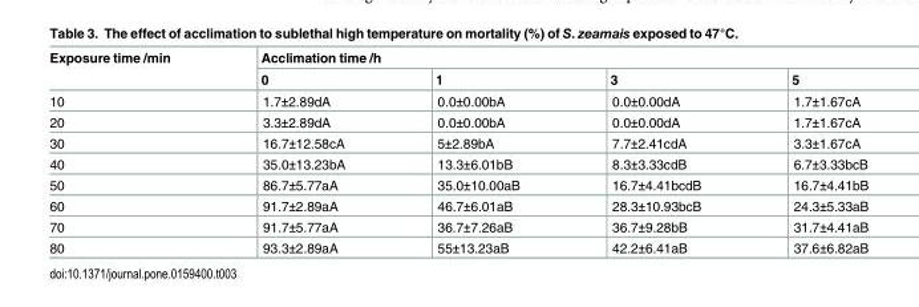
<table><thead><tr><td rowspan="2">Exposure time /min</td><td colspan="4">Acclimation time /h</td></tr><tr><td>0</td><td>1</td><td>3</td><td>5</td></tr></thead><tbody><tr><td>10</td><td>1.7±2.89dA</td><td>0.0±0.00bA</td><td>0.0±0.00dA</td><td>1.7±1.67cA</td></tr><tr><td>20</td><td>3.3±2.89dA</td><td>0.0±0.00bA</td><td>0.0±0.00dA</td><td>1.7±1.67cA</td></tr><tr><td>30</td><td>16.7±12.58cA</td><td>5±2.89bA</td><td>7.7±2.41cdA</td><td>3.3±1.67cA</td></tr><tr><td>40</td><td>35.0±13.23bA</td><td>13.3±6.01bB</td><td>8.3±3.33cdB</td><td>6.7±3.33bcB</td></tr><tr><td>50</td><td>86.7±5.77aA</td><td>35.0±10.00aB</td><td>16.7±4.41bcdB</td><td>16.7±4.41bB</td></tr><tr><td>60</td><td>91.7±2.89aA</td><td>46.7±6.01aB</td><td>28.3±10.93bcB</td><td>24.3±5.33aB</td></tr><tr><td>70</td><td>91.7±5.77aA</td><td>36.7±7.26aB</td><td>36.7±9.28bB</td><td>31.7±4.41aB</td></tr><tr><td>80</td><td>93.3±2.89aA</td><td>55±13.23aB</td><td>42.2±6.41aB</td><td>37.6±6.82aB</td></tr></tbody></table>